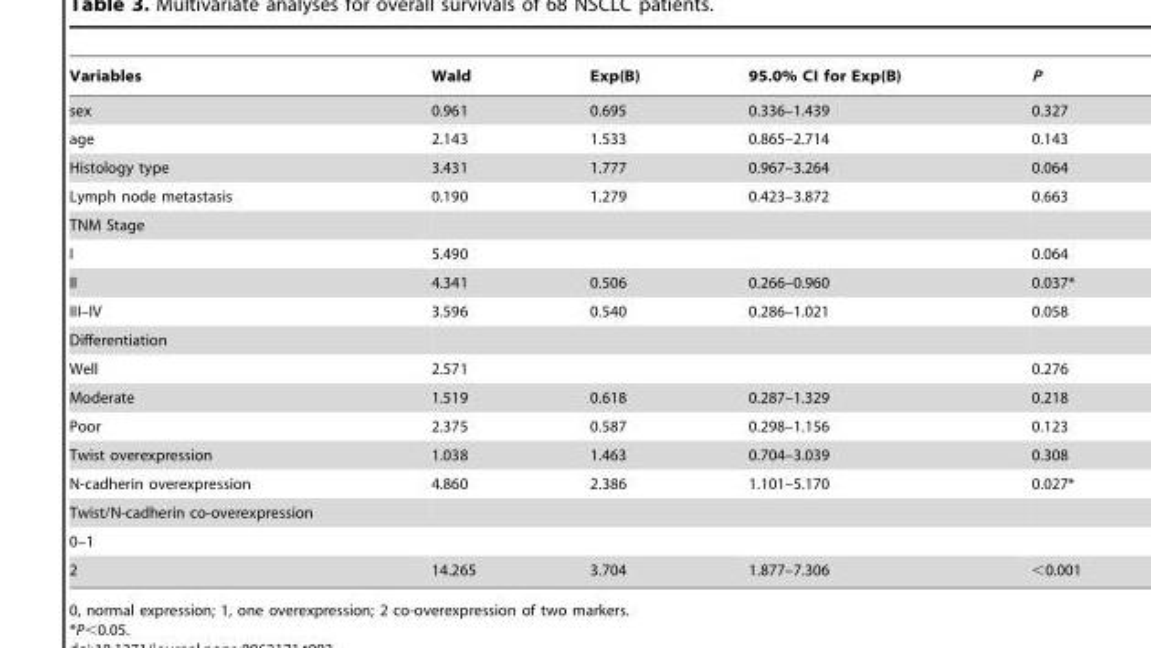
<table><thead><tr><td>Variables</td><td>Wald</td><td>Exp(B)</td><td>95.0% CI for Exp(B)</td><td>P</td></tr></thead><tbody><tr><td>sex</td><td>0.961</td><td>0.695</td><td>0.336–1.439</td><td>0.327</td></tr><tr><td>age</td><td>2.143</td><td>1.533</td><td>0.865–2.714</td><td>0.143</td></tr><tr><td>Histology type</td><td>3.431</td><td>1.777</td><td>0.967–3.264</td><td>0.064</td></tr><tr><td>Lymph node metastasis</td><td>0.190</td><td>1.279</td><td>0.423–3.872</td><td>0.663</td></tr><tr><td colspan="5">TNM Stage</td></tr><tr><td>I</td><td>5.490</td><td></td><td></td><td>0.064</td></tr><tr><td>II</td><td>4.341</td><td>0.506</td><td>0.266–0.960</td><td>0.037*</td></tr><tr><td>III–IV</td><td>3.596</td><td>0.540</td><td>0.286–1.021</td><td>0.058</td></tr><tr><td colspan="5">Differentiation</td></tr><tr><td>Well</td><td>2.571</td><td></td><td></td><td>0.276</td></tr><tr><td>Moderate</td><td>1.519</td><td>0.618</td><td>0.287–1.329</td><td>0.218</td></tr><tr><td>Poor</td><td>2.375</td><td>0.587</td><td>0.298–1.156</td><td>0.123</td></tr><tr><td>Twist overexpression</td><td>1.038</td><td>1.463</td><td>0.704–3.039</td><td>0.308</td></tr><tr><td>N-cadherin overexpression</td><td>4.860</td><td>2.386</td><td>1.101–5.170</td><td>0.027*</td></tr><tr><td colspan="5">Twist/N-cadherin co-overexpression</td></tr><tr><td colspan="5">0–1</td></tr><tr><td>2</td><td>14.265</td><td>3.704</td><td>1.877–7.306</td><td>&lt;0.001</td></tr></tbody></table>